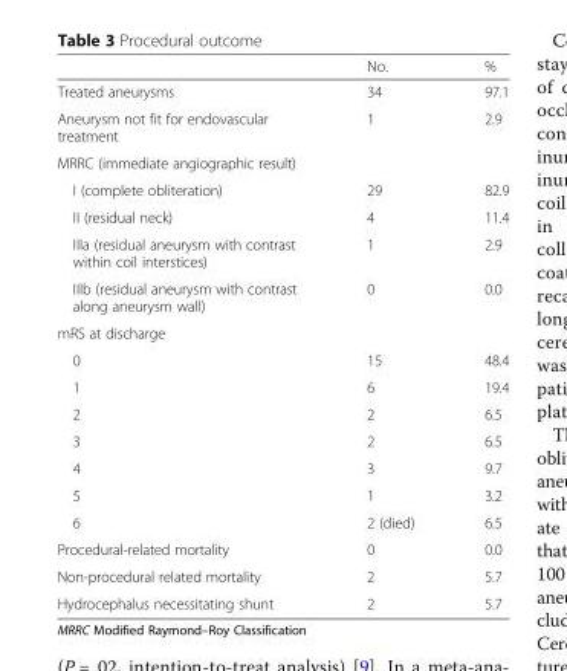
<table><thead><tr><td></td><td>No.</td><td>%</td></tr></thead><tbody><tr><td>Treated aneurysms</td><td>34</td><td>97.1</td></tr><tr><td>Aneurysm not fit for endovascular treatment</td><td>1</td><td>2.9</td></tr><tr><td colspan="3">MRRC (immediate angiographic result)</td></tr><tr><td>I (complete obliteration)</td><td>29</td><td>82.9</td></tr><tr><td>II (residual neck)</td><td>4</td><td>11.4</td></tr><tr><td>IIIa (residual aneurysm with contrast within coil interstices)</td><td>1</td><td>2.9</td></tr><tr><td>IIIb (residual aneurysm with contrast along aneurysm wall)</td><td>0</td><td>0.0</td></tr><tr><td colspan="3">mRS at discharge</td></tr><tr><td>0</td><td>15</td><td>48.4</td></tr><tr><td>1</td><td>6</td><td>19.4</td></tr><tr><td>2</td><td>2</td><td>6.5</td></tr><tr><td>3</td><td>2</td><td>6.5</td></tr><tr><td>4</td><td>3</td><td>9.7</td></tr><tr><td>5</td><td>1</td><td>3.2</td></tr><tr><td>6</td><td>2 (died)</td><td>6.5</td></tr><tr><td>Procedural-related mortality</td><td>0</td><td>0.0</td></tr><tr><td>Non-procedural related mortality</td><td>2</td><td>5.7</td></tr><tr><td>Hydrocephalus necessitating shunt</td><td>2</td><td>5.7</td></tr></tbody></table>